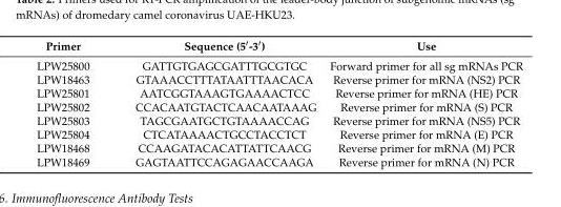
<table><thead><tr><td>Primer</td><td>Sequence (5′-3′)</td><td>Use</td></tr></thead><tbody><tr><td>LPW25800</td><td>GATTGTGAGCGATTTGCGTGC</td><td>Forward primer for all sg mRNAs PCR</td></tr><tr><td>LPW18463</td><td>GTAAACCTTTATAATTTAACACA</td><td>Reverse primer for mRNA (NS2) PCR</td></tr><tr><td>LPW25801</td><td>AATCGGTAAAGTGAAAACTCC</td><td>Reverse primer for mRNA (HE) PCR</td></tr><tr><td>LPW25802</td><td>CCACAATGTACTCAACAATAAAG</td><td>Reverse primer for mRNA (S) PCR</td></tr><tr><td>LPW25803</td><td>TAGCGAATGCTGTAAAACCAG</td><td>Reverse primer for mRNA (NS5) PCR</td></tr><tr><td>LPW25804</td><td>CTCATAAAACTGCCTACCTCT</td><td>Reverse primer for mRNA (E) PCR</td></tr><tr><td>LPW18468</td><td>CCAAGATACACATTATTCAACG</td><td>Reverse primer for mRNA (M) PCR</td></tr><tr><td>LPW18469</td><td>GAGTAATTCCAGAGAACCAAGA</td><td>Reverse primer for mRNA (N) PCR</td></tr></tbody></table>